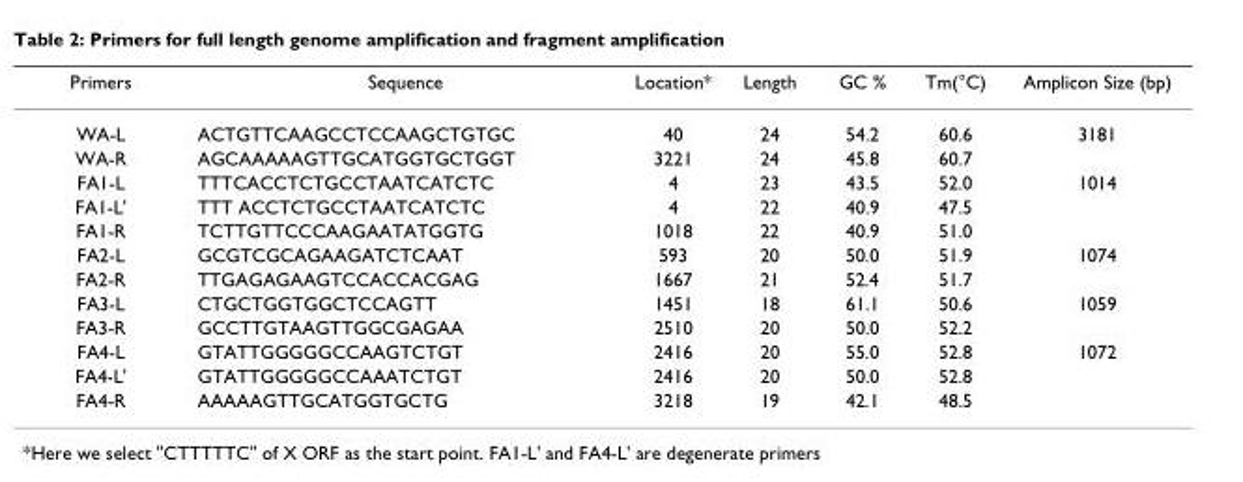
<table><thead><tr><td>Primers</td><td>Sequence</td><td>Location*</td><td>Length</td><td>GC %</td><td>Tm(°C)</td><td>Amplicon Size (bp)</td></tr></thead><tbody><tr><td>WA-L</td><td>ACTGTTCAAGCCTCCAAGCTGTGC</td><td>40</td><td>24</td><td>54.2</td><td>60.6</td><td>3181</td></tr><tr><td>WA-R</td><td>AGCAAAAAGTTGCATGGTGCTGGT</td><td>3221</td><td>24</td><td>45.8</td><td>60.7</td><td></td></tr><tr><td>FA1-L</td><td>TTTCACCTCTGCCTAATCATCTC</td><td>4</td><td>23</td><td>43.5</td><td>52.0</td><td>1014</td></tr><tr><td>FA1-L&#x27;</td><td>TTT ACCTCTGCCTAATCATCTC</td><td>4</td><td>22</td><td>40.9</td><td>47.5</td><td></td></tr><tr><td>FA1-R</td><td>TCTTGTTCCCAAGAATATGGTG</td><td>1018</td><td>22</td><td>40.9</td><td>51.0</td><td></td></tr><tr><td>FA2-L</td><td>GCGTCGCAGAAGATCTCAAT</td><td>593</td><td>20</td><td>50.0</td><td>51.9</td><td>1074</td></tr><tr><td>FA2-R</td><td>TTGAGAGAAGTCCACCACGAG</td><td>1667</td><td>21</td><td>52.4</td><td>51.7</td><td></td></tr><tr><td>FA3-L</td><td>CTGCTGGTGGCTCCAGTT</td><td>1451</td><td>18</td><td>61.1</td><td>50.6</td><td>1059</td></tr><tr><td>FA3-R</td><td>GCCTTGTAAGTTGGCGAGAA</td><td>2510</td><td>20</td><td>50.0</td><td>52.2</td><td></td></tr><tr><td>FA4-L</td><td>GTATTGGGGGCCAAGTCTGT</td><td>2416</td><td>20</td><td>55.0</td><td>52.8</td><td>1072</td></tr><tr><td>FA4-L&#x27;</td><td>GTATTGGGGGCCAAATCTGT</td><td>2416</td><td>20</td><td>50.0</td><td>52.8</td><td></td></tr><tr><td>FA4-R</td><td>AAAAAGTTGCATGGTGCTG</td><td>3218</td><td>19</td><td>42.1</td><td>48.5</td><td></td></tr></tbody></table>